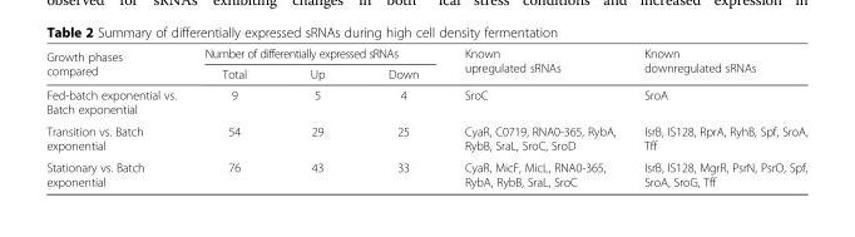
<table><thead><tr><td rowspan="2">Growth phases compared</td><td colspan="3">Number of differentially expressed sRNAs</td><td rowspan="2">Known upregulated sRNAs</td><td rowspan="2">Known downregulated sRNAs</td></tr><tr><td>Total</td><td>Up</td><td>Down</td></tr></thead><tbody><tr><td>Fed-batch exponential vs. Batch exponential</td><td>9</td><td>5</td><td>4</td><td>SroC</td><td>SroA</td></tr><tr><td>Transition vs. Batch exponential</td><td>54</td><td>29</td><td>25</td><td>CyaR, C0719, RNA0-365, RybA, RybB, SraL, SroC, SroD</td><td>IsrB, IS128, RprA, RyhB, Spf, SroA, Tff</td></tr><tr><td>Stationary vs. Batch exponential</td><td>76</td><td>43</td><td>33</td><td>CyaR, MicF, MicL, RNA0-365, RybA, RybB, SraL, SroC</td><td>IsrB, IS128, MgrR, PsrN, PsrO, Spf, SroA, SroG, Tff</td></tr></tbody></table>